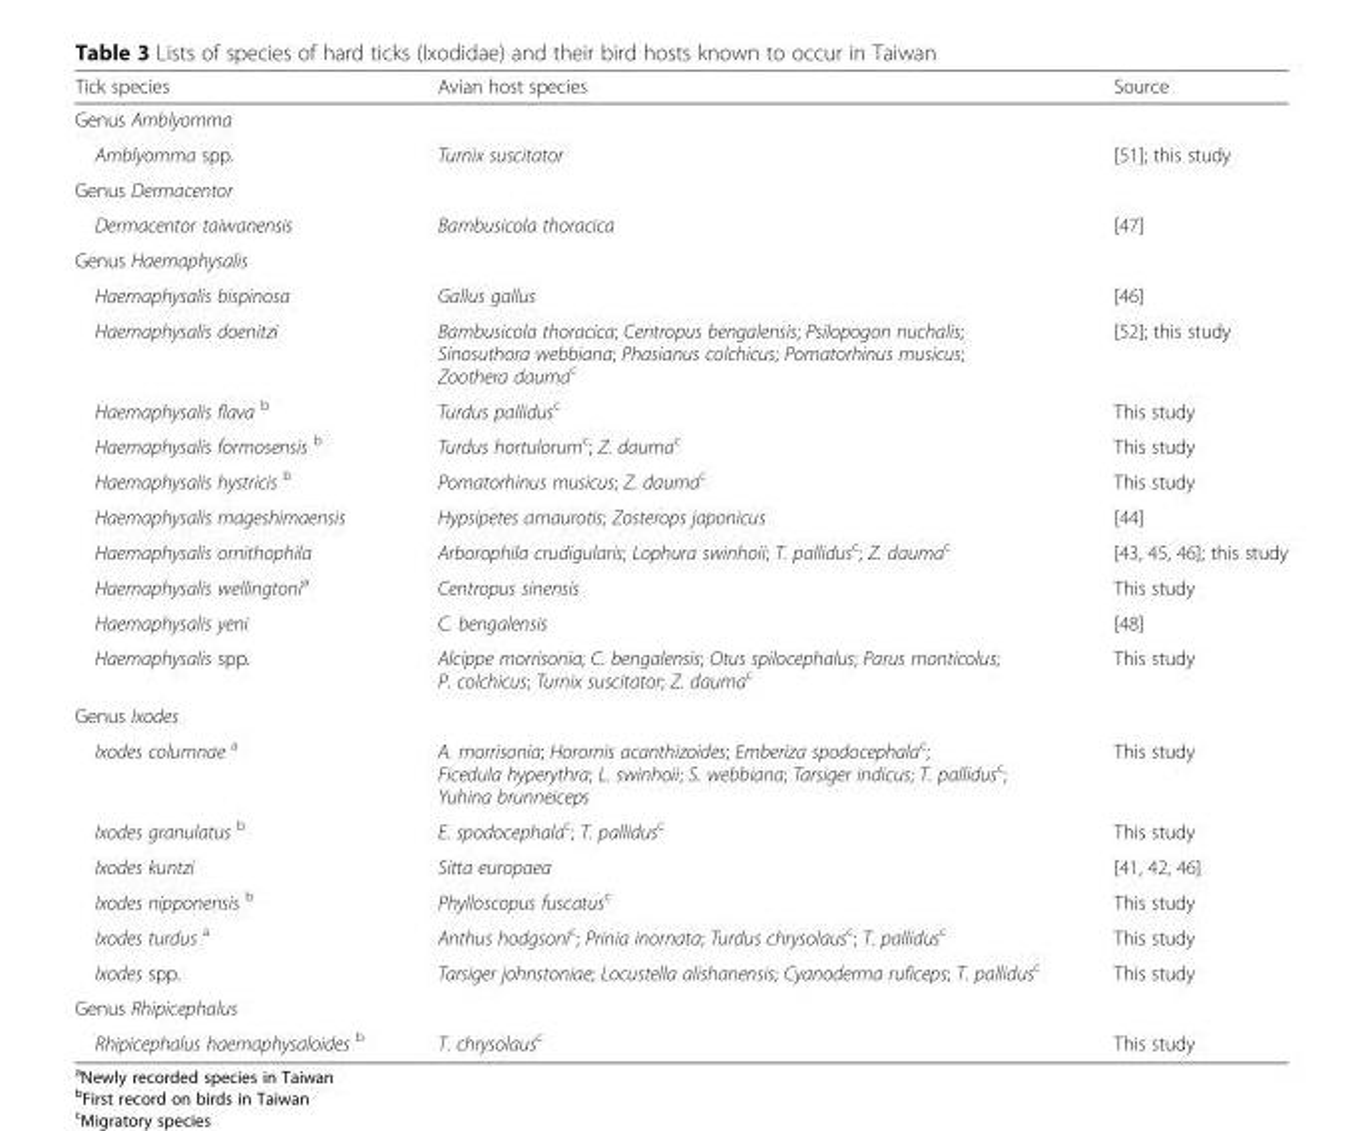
<table><thead><tr><td>Tick species</td><td>Avian host species</td><td>Source</td></tr></thead><tbody><tr><td colspan="3">Genus Amblyomma</td></tr><tr><td>Amblyomma spp.</td><td>Turnix suscitator</td><td>[51]; this study</td></tr><tr><td colspan="3">Genus Dermacentor</td></tr><tr><td>Dermacentor taiwanensis</td><td>Bambusicola thoracica</td><td>[47]</td></tr><tr><td colspan="3">Genus Haemaphysalis</td></tr><tr><td>Haemaphysalis bispinosa</td><td>Gallus gallus</td><td>[46]</td></tr><tr><td>Haemaphysalis doenitzi</td><td>Bambusicola thoracica; Centropus bengalensis; Psilopogon nuchalis; Sinosuthora webbiana; Phasianus colchicus; Pomatorhinus musicus; Zoothera dauma<sup>c</sup></td><td>[52]; this study</td></tr><tr><td>Haemaphysalis flava <sup>b</sup></td><td>Turdus pallidus<sup>c</sup></td><td>This study</td></tr><tr><td>Haemaphysalis formosensis <sup>b</sup></td><td>Turdus hortulorum<sup>c</sup>; Z. dauma<sup>c</sup></td><td>This study</td></tr><tr><td>Haemaphysalis hystricis <sup>b</sup></td><td>Pomatorhinus musicus; Z. dauma<sup>c</sup></td><td>This study</td></tr><tr><td>Haemaphysalis mageshimaensis</td><td>Hypsipetes amaurotis; Zosterops japonicus</td><td>[44]</td></tr><tr><td>Haemaphysalis ornithophila</td><td>Arborophila crudigularis; Lophura swinhoii; T. pallidus<sup>c</sup>; Z. dauma<sup>c</sup></td><td>[43, 45, 46]; this study</td></tr><tr><td>Haemaphysalis wellingtoni<sup>a</sup></td><td>Centropus sinensis</td><td>This study</td></tr><tr><td>Haemaphysalis yeni</td><td>C. bengalensis</td><td>[48]</td></tr><tr><td>Haemaphysalis spp.</td><td>Alcippe morrisonia; C. bengalensis; Otus spilocephalus; Parus monticolus; P. colchicus; Turnix suscitator; Z. dauma<sup>c</sup></td><td>This study</td></tr><tr><td colspan="3">Genus Ixodes</td></tr><tr><td>Ixodes columnae <sup>a</sup></td><td>A. morrisonia; Horornis acanthizoides; Emberiza spodocephala<sup>c</sup>; Ficedula hyperythra; L. swinhoii; S. webbiana; Tarsiger indicus; T. pallidus<sup>c</sup>; Yuhina brunneiceps</td><td>This study</td></tr><tr><td>Ixodes granulatus <sup>b</sup></td><td>E. spodocephala<sup>c</sup>; T. pallidus<sup>c</sup></td><td>This study</td></tr><tr><td>Ixodes kuntzi</td><td>Sitta europaea</td><td>[41, 42, 46]</td></tr><tr><td>Ixodes nipponensis <sup>b</sup></td><td>Phylloscopus fuscatus<sup>c</sup></td><td>This study</td></tr><tr><td>Ixodes turdus <sup>a</sup></td><td>Anthus hodgsoni<sup>c</sup>; Prinia inornata; Turdus chrysolaus<sup>c</sup>; T. pallidus<sup>c</sup></td><td>This study</td></tr><tr><td>Ixodes spp.</td><td>Tarsiger johnstoniae; Locustella alishanensis; Cyanoderma ruficeps; T. pallidus<sup>c</sup></td><td>This study</td></tr><tr><td colspan="3">Genus Rhipicephalus</td></tr><tr><td>Rhipicephalus haemaphysaloides <sup>b</sup></td><td>T. chrysolaus<sup>c</sup></td><td>This study</td></tr></tbody></table>